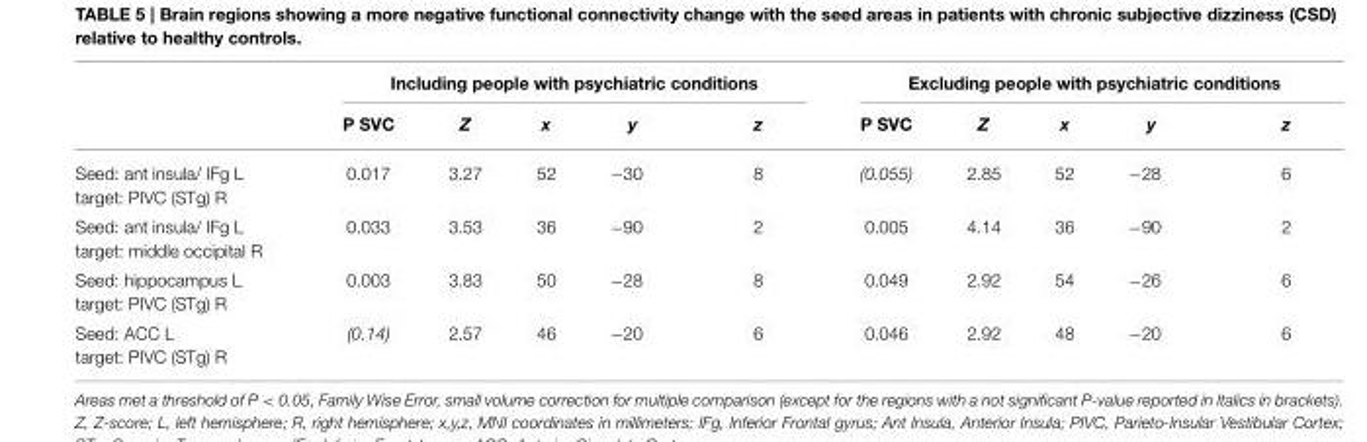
<table><thead><tr><td rowspan="2"></td><td colspan="5">Including people with psychiatric conditions</td><td colspan="5">Excluding people with psychiatric conditions</td></tr><tr><td>P SVC</td><td>Z</td><td>x</td><td>y</td><td>z</td><td>P SVC</td><td>Z</td><td>x</td><td>y</td><td>z</td></tr></thead><tbody><tr><td>Seed: ant insula/ IFg L target: PIVC (STg) R</td><td>0.017</td><td>3.27</td><td>52</td><td>−30</td><td>8</td><td>(0.055)</td><td>2.85</td><td>52</td><td>−28</td><td>6</td></tr><tr><td>Seed: ant insula/ IFg L target: middle occipital R</td><td>0.033</td><td>3.53</td><td>36</td><td>−90</td><td>2</td><td>0.005</td><td>4.14</td><td>36</td><td>−90</td><td>2</td></tr><tr><td>Seed: hippocampus L target: PIVC (STg) R</td><td>0.003</td><td>3.83</td><td>50</td><td>−28</td><td>8</td><td>0.049</td><td>2.92</td><td>54</td><td>−26</td><td>6</td></tr><tr><td>Seed: ACC L target: PIVC (STg) R</td><td>(0.14)</td><td>2.57</td><td>46</td><td>−20</td><td>6</td><td>0.046</td><td>2.92</td><td>48</td><td>−20</td><td>6</td></tr></tbody></table>